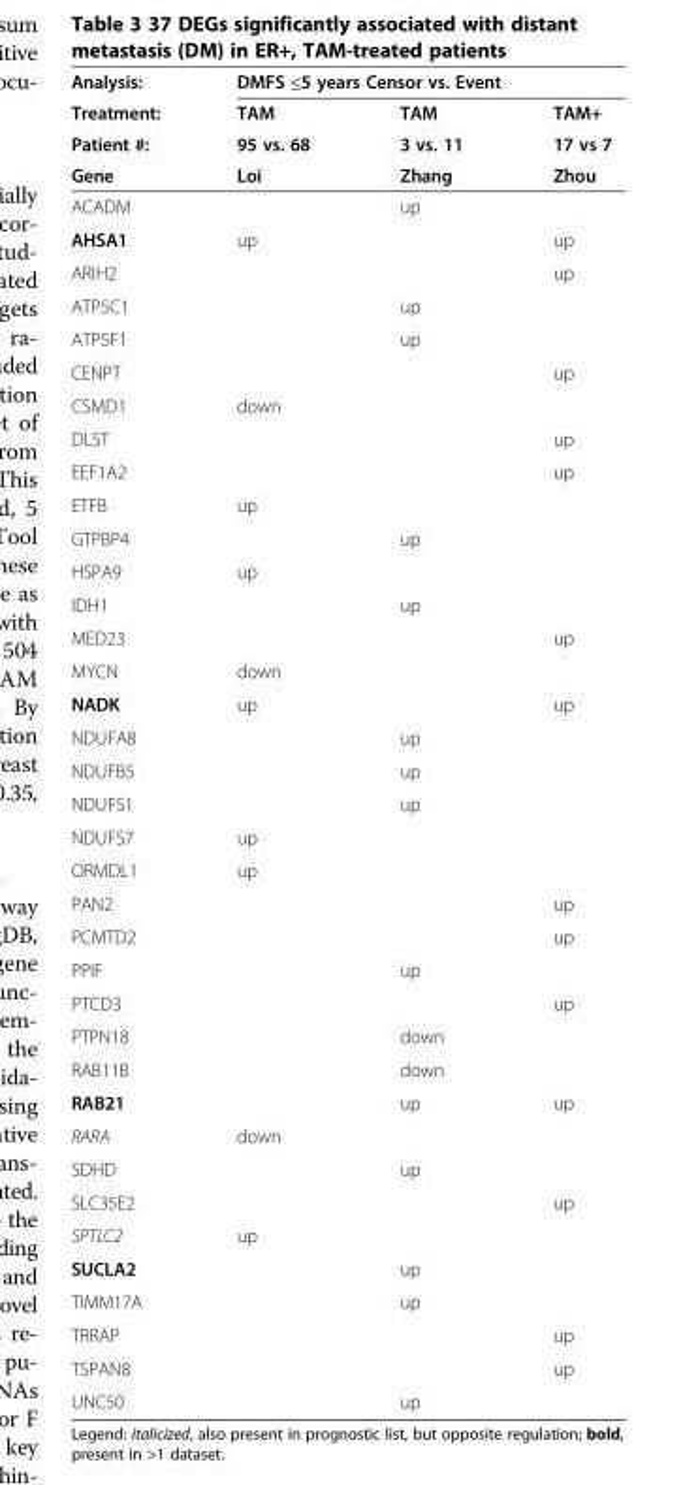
<table><thead><tr><td rowspan="4">Analysis: Treatment: Patient #: Gene</td><td colspan="3">DMFS ≤5 years Censor vs. Event</td></tr><tr><td rowspan="3">TAM 95 vs. 68 Loi</td><td rowspan="3">TAM 3 vs. 11 Zhang</td><td rowspan="3">TAM+ 17 vs 7 Zhou</td></tr><tr></tr><tr></tr></thead><tbody><tr><td>ACADM</td><td></td><td>up</td><td></td></tr><tr><td>AHSA1</td><td>up</td><td></td><td>up</td></tr><tr><td>ARIH2</td><td></td><td></td><td>up</td></tr><tr><td>ATP5C1</td><td></td><td>up</td><td></td></tr><tr><td>ATP5F1</td><td></td><td>up</td><td></td></tr><tr><td>CENPT</td><td></td><td></td><td>up</td></tr><tr><td>CSMD1</td><td>down</td><td></td><td></td></tr><tr><td>DLST</td><td></td><td></td><td>up</td></tr><tr><td>EEF1A2</td><td></td><td></td><td>up</td></tr><tr><td>ETFB</td><td>up</td><td></td><td></td></tr><tr><td>GTPBP4</td><td></td><td>up</td><td></td></tr><tr><td>HSPA9</td><td>up</td><td></td><td></td></tr><tr><td>IDH1</td><td></td><td>up</td><td></td></tr><tr><td>MED23</td><td></td><td></td><td>up</td></tr><tr><td>MYCN</td><td>down</td><td></td><td></td></tr><tr><td>NADK</td><td>up</td><td></td><td>up</td></tr><tr><td>NDUFA8</td><td></td><td>up</td><td></td></tr><tr><td>NDUFB5</td><td></td><td>up</td><td></td></tr><tr><td>NDUFS1</td><td></td><td>up</td><td></td></tr><tr><td>NDUFS7</td><td>up</td><td></td><td></td></tr><tr><td>ORMDL1</td><td>up</td><td></td><td></td></tr><tr><td>PAN2</td><td></td><td></td><td>up</td></tr><tr><td>PCMTD2</td><td></td><td></td><td>up</td></tr><tr><td>PPIF</td><td></td><td>up</td><td></td></tr><tr><td>PTCD3</td><td></td><td></td><td>up</td></tr><tr><td>PTPN18</td><td></td><td>down</td><td></td></tr><tr><td>RAB11B</td><td></td><td>down</td><td></td></tr><tr><td>RAB21</td><td></td><td>up</td><td>up</td></tr><tr><td>RARA</td><td>down</td><td></td><td></td></tr><tr><td>SDHD</td><td></td><td>up</td><td></td></tr><tr><td>SLC35E2</td><td></td><td></td><td>up</td></tr><tr><td>SPTLC2</td><td>up</td><td></td><td></td></tr><tr><td>SUCLA2</td><td></td><td>up</td><td></td></tr><tr><td>TIMM17A</td><td></td><td>up</td><td></td></tr><tr><td>TRRAP</td><td></td><td></td><td>up</td></tr><tr><td>TSPAN8</td><td></td><td></td><td>up</td></tr><tr><td>UNC50</td><td></td><td>up</td><td></td></tr></tbody></table>